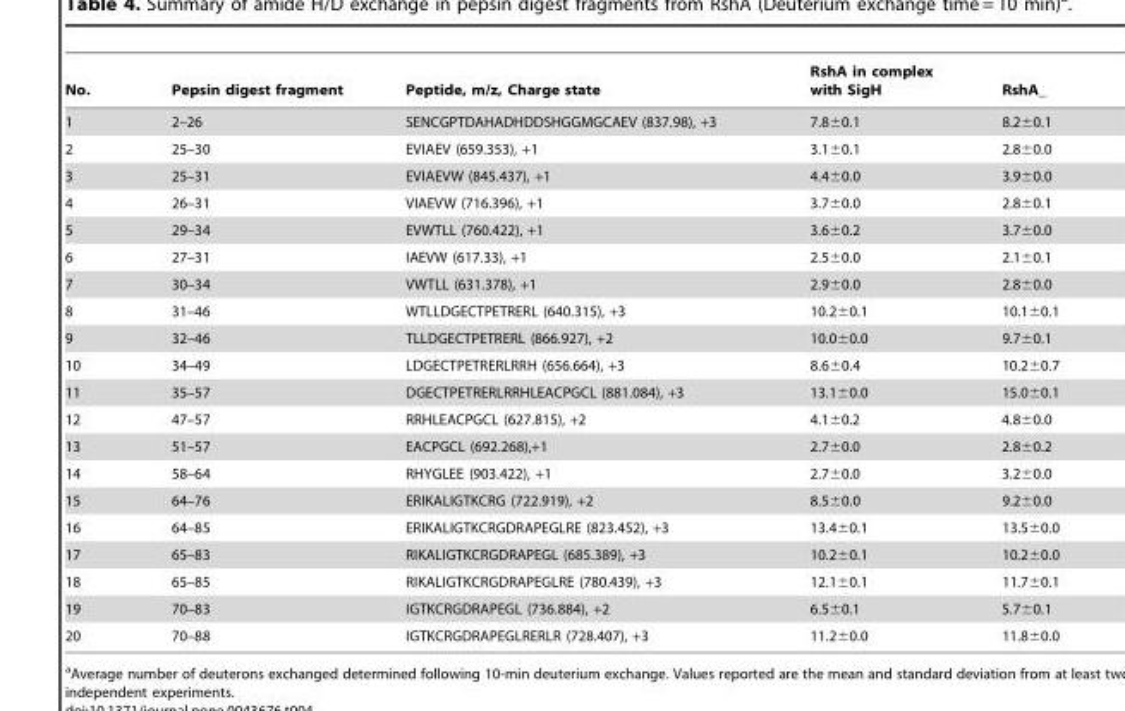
<table><thead><tr><td>No.</td><td>Pepsin digest fragment</td><td>Peptide, m/z, Charge state</td><td>RshA in complex with SigH</td><td>RshA_</td></tr></thead><tbody><tr><td>1</td><td>2–26</td><td>SENCGPTDAHADHDDSHGGMGCAEV (837.98), +3</td><td>7.8±0.1</td><td>8.2±0.1</td></tr><tr><td>2</td><td>25–30</td><td>EVIAEV (659.353), +1</td><td>3.1±0.1</td><td>2.8±0.0</td></tr><tr><td>3</td><td>25–31</td><td>EVIAEVW (845.437), +1</td><td>4.4±0.0</td><td>3.9±0.0</td></tr><tr><td>4</td><td>26–31</td><td>VIAEVW (716.396), +1</td><td>3.7±0.0</td><td>2.8±0.1</td></tr><tr><td>5</td><td>29–34</td><td>EVWTLL (760.422), +1</td><td>3.6±0.2</td><td>3.7±0.0</td></tr><tr><td>6</td><td>27–31</td><td>IAEVW (617.33), +1</td><td>2.5±0.0</td><td>2.1±0.1</td></tr><tr><td>7</td><td>30–34</td><td>VWTLL (631.378), +1</td><td>2.9±0.0</td><td>2.8±0.0</td></tr><tr><td>8</td><td>31–46</td><td>WTLLDGECTPETRERL (640.315), +3</td><td>10.2±0.1</td><td>10.1±0.1</td></tr><tr><td>9</td><td>32–46</td><td>TLLDGECTPETRERL (866.927), +2</td><td>10.0±0.0</td><td>9.7±0.1</td></tr><tr><td>10</td><td>34–49</td><td>LDGECTPETRERLRRH (656.664), +3</td><td>8.6±0.4</td><td>10.2±0.7</td></tr><tr><td>11</td><td>35–57</td><td>DGECTPETRERLRRHLEACPGCL (881.084), +3</td><td>13.1±0.0</td><td>15.0±0.1</td></tr><tr><td>12</td><td>47–57</td><td>RRHLEACPGCL (627.815), +2</td><td>4.1±0.2</td><td>4.8±0.0</td></tr><tr><td>13</td><td>51–57</td><td>EACPGCL (692.268),+1</td><td>2.7±0.0</td><td>2.8±0.2</td></tr><tr><td>14</td><td>58–64</td><td>RHYGLEE (903.422), +1</td><td>2.7±0.0</td><td>3.2±0.0</td></tr><tr><td>15</td><td>64–76</td><td>ERIKALIGTKCRG (722.919), +2</td><td>8.5±0.0</td><td>9.2±0.0</td></tr><tr><td>16</td><td>64–85</td><td>ERIKALIGTKCRGDRAPEGLRE (823.452), +3</td><td>13.4±0.1</td><td>13.5±0.0</td></tr><tr><td>17</td><td>65–83</td><td>RIKALIGTKCRGDRAPEGL (685.389), +3</td><td>10.2±0.1</td><td>10.2±0.0</td></tr><tr><td>18</td><td>65–85</td><td>RIKALIGTKCRGDRAPEGLRE (780.439), +3</td><td>12.1±0.1</td><td>11.7±0.1</td></tr><tr><td>19</td><td>70–83</td><td>IGTKCRGDRAPEGL (736.884), +2</td><td>6.5±0.1</td><td>5.7±0.1</td></tr><tr><td>20</td><td>70–88</td><td>IGTKCRGDRAPEGLRERLR (728.407), +3</td><td>11.2±0.0</td><td>11.8±0.0</td></tr></tbody></table>